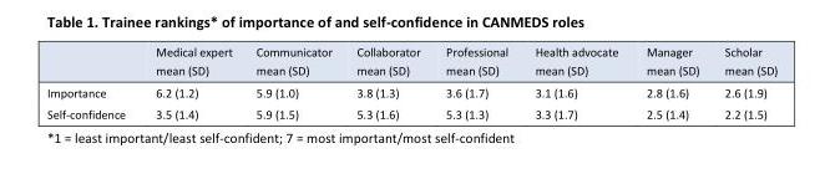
<table><thead><tr><td></td><td>Medical expert mean (SD)</td><td>Communicator mean (SD)</td><td>Collaborator mean (SD)</td><td>Professional mean (SD)</td><td>Health advocate mean (SD)</td><td>Manager mean (SD)</td><td>Scholar mean (SD)</td></tr></thead><tbody><tr><td>Importance</td><td>6.2 (1.2)</td><td>5.9 (1.0)</td><td>3.8 (1.3)</td><td>3.6 (1.7)</td><td>3.1 (1.6)</td><td>2.8 (1.6)</td><td>2.6 (1.9)</td></tr><tr><td>Self-confidence</td><td>3.5 (1.4)</td><td>5.9 (1.5)</td><td>5.3 (1.6)</td><td>5.3 (1.3)</td><td>3.3 (1.7)</td><td>2.5 (1.4)</td><td>2.2 (1.5)</td></tr></tbody></table>